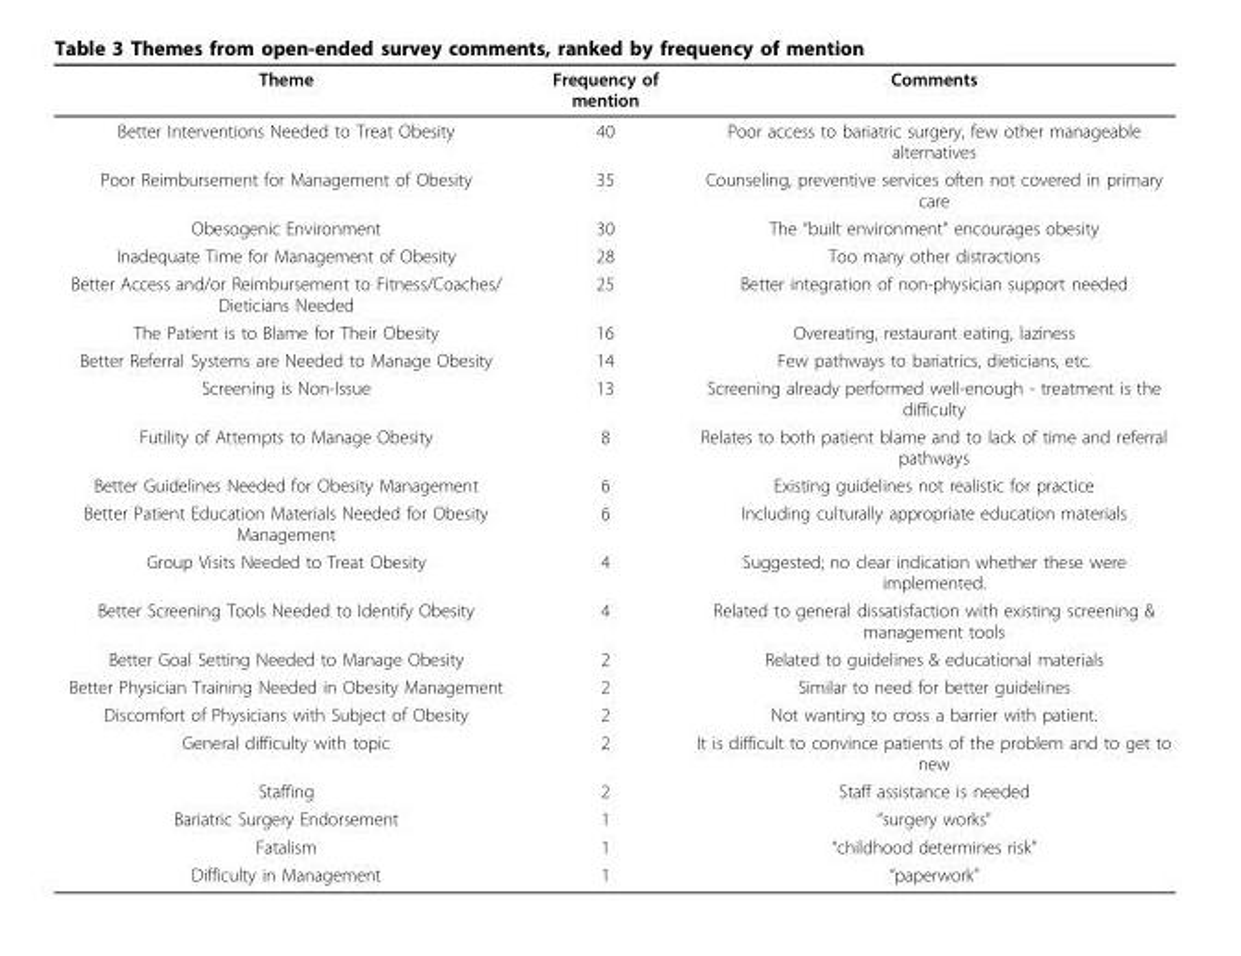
<table><thead><tr><td>Theme</td><td>Frequency of mention</td><td>Comments</td></tr></thead><tbody><tr><td>Better Interventions Needed to Treat Obesity</td><td>40</td><td>Poor access to bariatric surgery, few other manageable alternatives</td></tr><tr><td>Poor Reimbursement for Management of Obesity</td><td>35</td><td>Counseling, preventive services often not covered in primary care</td></tr><tr><td>Obesogenic Environment</td><td>30</td><td>The “built environment” encourages obesity</td></tr><tr><td>Inadequate Time for Management of Obesity</td><td>28</td><td>Too many other distractions</td></tr><tr><td>Better Access and/or Reimbursement to Fitness/Coaches/ Dieticians Needed</td><td>25</td><td>Better integration of non-physician support needed</td></tr><tr><td>The Patient is to Blame for Their Obesity</td><td>16</td><td>Overeating, restaurant eating, laziness</td></tr><tr><td>Better Referral Systems are Needed to Manage Obesity</td><td>14</td><td>Few pathways to bariatrics, dieticians, etc.</td></tr><tr><td>Screening is Non-Issue</td><td>13</td><td>Screening already performed well-enough - treatment is the difficulty</td></tr><tr><td>Futility of Attempts to Manage Obesity</td><td>8</td><td>Relates to both patient blame and to lack of time and referral pathways</td></tr><tr><td>Better Guidelines Needed for Obesity Management</td><td>6</td><td>Existing guidelines not realistic for practice</td></tr><tr><td>Better Patient Education Materials Needed for Obesity Management</td><td>6</td><td>Including culturally appropriate education materials</td></tr><tr><td>Group Visits Needed to Treat Obesity</td><td>4</td><td>Suggested; no clear indication whether these were implemented.</td></tr><tr><td>Better Screening Tools Needed to Identify Obesity</td><td>4</td><td>Related to general dissatisfaction with existing screening &amp; management tools</td></tr><tr><td>Better Goal Setting Needed to Manage Obesity</td><td>2</td><td>Related to guidelines &amp; educational materials</td></tr><tr><td>Better Physician Training Needed in Obesity Management</td><td>2</td><td>Similar to need for better guidelines</td></tr><tr><td>Discomfort of Physicians with Subject of Obesity</td><td>2</td><td>Not wanting to cross a barrier with patient.</td></tr><tr><td>General difficulty with topic</td><td>2</td><td>It is difficult to convince patients of the problem and to get to new</td></tr><tr><td>Staffing</td><td>2</td><td>Staff assistance is needed</td></tr><tr><td>Bariatric Surgery Endorsement</td><td>1</td><td>“surgery works”</td></tr><tr><td>Fatalism</td><td>1</td><td>“childhood determines risk”</td></tr><tr><td>Difficulty in Management</td><td>1</td><td>“paperwork”</td></tr></tbody></table>